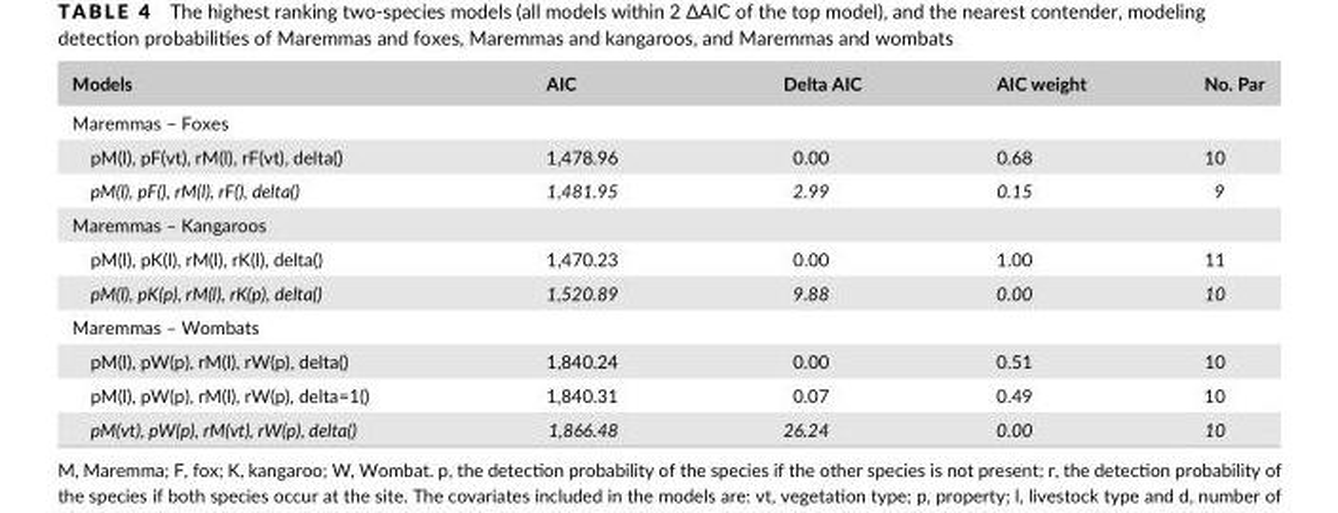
<table><thead><tr><td>Models</td><td>AIC</td><td>Delta AIC</td><td>AIC weight</td><td>No. Par</td></tr></thead><tbody><tr><td colspan="5">Maremmas – Foxes</td></tr><tr><td>pM(l), pF(vt), rM(l), rF(vt), delta()</td><td>1,478.96</td><td>0.00</td><td>0.68</td><td>10</td></tr><tr><td>pM(l), pF(), rM(l), rF(), delta()</td><td>1,481.95</td><td>2.99</td><td>0.15</td><td>9</td></tr><tr><td colspan="5">Maremmas – Kangaroos</td></tr><tr><td>pM(l), pK(l), rM(l), rK(l), delta()</td><td>1,470.23</td><td>0.00</td><td>1.00</td><td>11</td></tr><tr><td>pM(l), pK(p), rM(l), rK(p), delta()</td><td>1,520.89</td><td>9.88</td><td>0.00</td><td>10</td></tr><tr><td colspan="5">Maremmas – Wombats</td></tr><tr><td>pM(l), pW(p), rM(l), rW(p), delta()</td><td>1,840.24</td><td>0.00</td><td>0.51</td><td>10</td></tr><tr><td>pM(l), pW(p), rM(l), rW(p), delta=1()</td><td>1,840.31</td><td>0.07</td><td>0.49</td><td>10</td></tr><tr><td>pM(vt), pW(p), rM(vt), rW(p), delta()</td><td>1,866.48</td><td>26.24</td><td>0.00</td><td>10</td></tr></tbody></table>